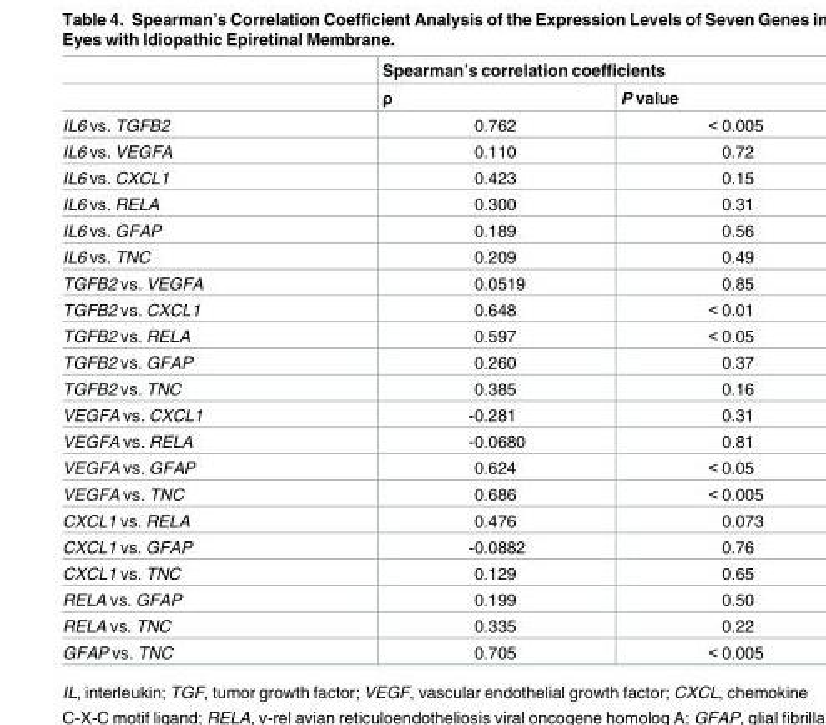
<table><thead><tr><td rowspan="2"></td><td colspan="2">Spearman’s correlation coefficients</td></tr><tr><td>ρ</td><td>P value</td></tr></thead><tbody><tr><td>IL6 vs. TGFB2</td><td>0.762</td><td>&lt; 0.005</td></tr><tr><td>IL6 vs. VEGFA</td><td>0.110</td><td>0.72</td></tr><tr><td>IL6 vs. CXCL1</td><td>0.423</td><td>0.15</td></tr><tr><td>IL6 vs. RELA</td><td>0.300</td><td>0.31</td></tr><tr><td>IL6 vs. GFAP</td><td>0.189</td><td>0.56</td></tr><tr><td>IL6 vs. TNC</td><td>0.209</td><td>0.49</td></tr><tr><td>TGFB2 vs. VEGFA</td><td>0.0519</td><td>0.85</td></tr><tr><td>TGFB2 vs. CXCL1</td><td>0.648</td><td>&lt; 0.01</td></tr><tr><td>TGFB2 vs. RELA</td><td>0.597</td><td>&lt; 0.05</td></tr><tr><td>TGFB2 vs. GFAP</td><td>0.260</td><td>0.37</td></tr><tr><td>TGFB2 vs. TNC</td><td>0.385</td><td>0.16</td></tr><tr><td>VEGFA vs. CXCL1</td><td>-0.281</td><td>0.31</td></tr><tr><td>VEGFA vs. RELA</td><td>-0.0680</td><td>0.81</td></tr><tr><td>VEGFA vs. GFAP</td><td>0.624</td><td>&lt; 0.05</td></tr><tr><td>VEGFA vs. TNC</td><td>0.686</td><td>&lt; 0.005</td></tr><tr><td>CXCL1 vs. RELA</td><td>0.476</td><td>0.073</td></tr><tr><td>CXCL1 vs. GFAP</td><td>-0.0882</td><td>0.76</td></tr><tr><td>CXCL1 vs. TNC</td><td>0.129</td><td>0.65</td></tr><tr><td>RELA vs. GFAP</td><td>0.199</td><td>0.50</td></tr><tr><td>RELA vs. TNC</td><td>0.335</td><td>0.22</td></tr><tr><td>GFAP vs. TNC</td><td>0.705</td><td>&lt; 0.005</td></tr></tbody></table>